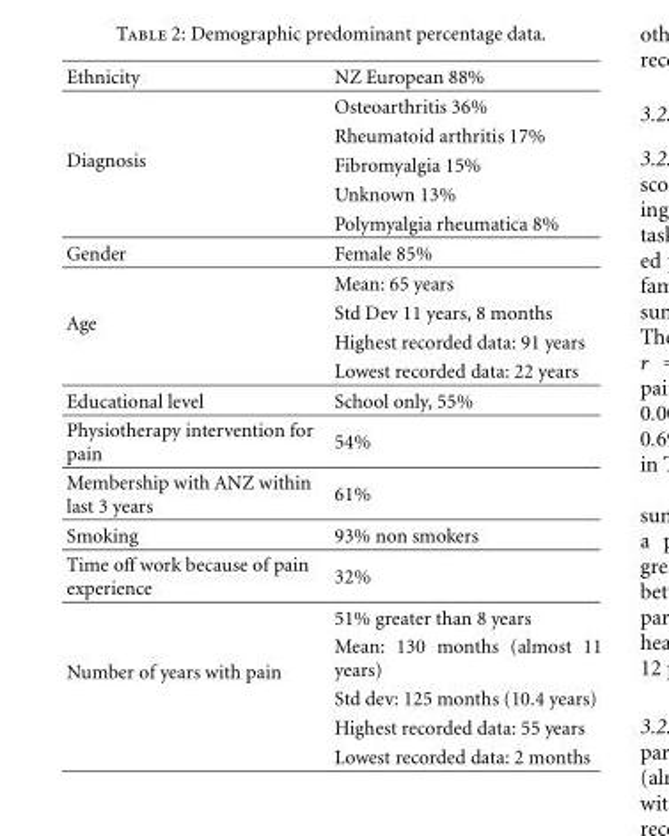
<table><thead><tr><td>Ethnicity</td><td>NZ European 88%</td></tr></thead><tbody><tr><td rowspan="5">Diagnosis</td><td>Osteoarthritis 36%</td></tr><tr><td>Rheumatoid arthritis 17%</td></tr><tr><td>Fibromyalgia 15%</td></tr><tr><td>Unknown 13%</td></tr><tr><td>Polymyalgia rheumatica 8%</td></tr><tr><td>Gender</td><td>Female 85%</td></tr><tr><td rowspan="4">Age</td><td>Mean: 65 years</td></tr><tr><td>Std Dev 11 years, 8 months</td></tr><tr><td>Highest recorded data: 91 years</td></tr><tr><td>Lowest recorded data: 22 years</td></tr><tr><td>Educational level</td><td>School only, 55%</td></tr><tr><td>Physiotherapy intervention for pain</td><td>54%</td></tr><tr><td>Membership with ANZ within last 3 years</td><td>61%</td></tr><tr><td>Smoking</td><td>93% non smokers</td></tr><tr><td>Time off work because of pain experience</td><td>32%</td></tr><tr><td rowspan="5">Number of years with pain</td><td>51% greater than 8 years</td></tr><tr><td>Mean: 130 months (almost 11 years)</td></tr><tr><td>Std dev: 125 months (10.4 years)</td></tr><tr><td>Highest recorded data: 55 years</td></tr><tr><td>Lowest recorded data: 2 months</td></tr></tbody></table>